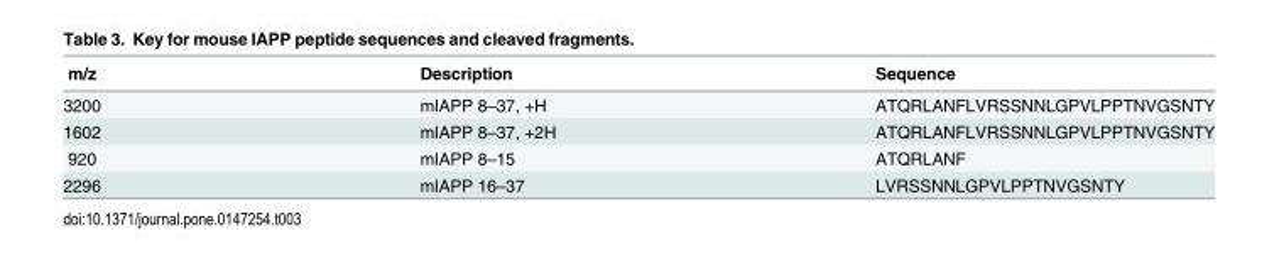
<table><thead><tr><td>m/z</td><td>Description</td><td>Sequence</td></tr></thead><tbody><tr><td>3200</td><td>mIAPP 8–37, +H</td><td>ATQRLANFLVRSSNNLGPVLPPTNVGSNTY</td></tr><tr><td>1602</td><td>mIAPP 8–37, +2H</td><td>ATQRLANFLVRSSNNLGPVLPPTNVGSNTY</td></tr><tr><td>920</td><td>mIAPP 8–15</td><td>ATQRLANF</td></tr><tr><td>2296</td><td>mIAPP 16–37</td><td>LVRSSNNLGPVLPPTNVGSNTY</td></tr></tbody></table>